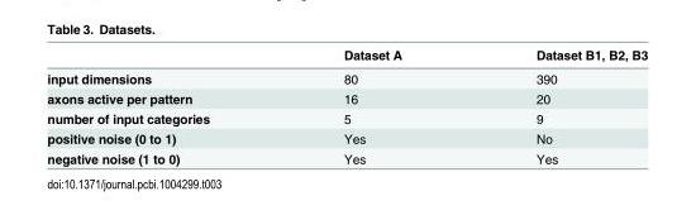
<table><thead><tr><td></td><td>Dataset A</td><td>Dataset B1, B2, B3</td></tr></thead><tbody><tr><td>input dimensions</td><td>80</td><td>390</td></tr><tr><td>axons active per pattern</td><td>16</td><td>20</td></tr><tr><td>number of input categories</td><td>5</td><td>9</td></tr><tr><td>positive noise (0 to 1)</td><td>Yes</td><td>No</td></tr><tr><td>negative noise (1 to 0)</td><td>Yes</td><td>Yes</td></tr></tbody></table>